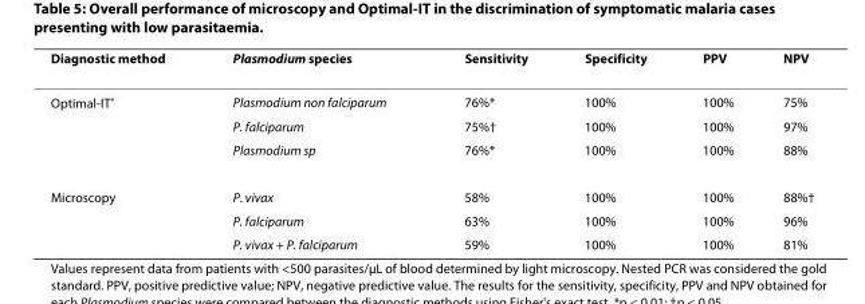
<table><thead><tr><td>Diagnostic method</td><td>Plasmodium species</td><td>Sensitivity</td><td>Specificity</td><td>PPV</td><td>NPV</td></tr></thead><tbody><tr><td rowspan="3">Optimal-IT<sup>®</sup></td><td>Plasmodium non falciparum</td><td>76%*</td><td>100%</td><td>100%</td><td>75%</td></tr><tr><td>P. falciparum</td><td>75%†</td><td>100%</td><td>100%</td><td>97%</td></tr><tr><td>Plasmodium sp</td><td>76%*</td><td>100%</td><td>100%</td><td>88%</td></tr><tr><td rowspan="3">Microscopy</td><td>P. vivax</td><td>58%</td><td>100%</td><td>100%</td><td>88%†</td></tr><tr><td>P. falciparum</td><td>63%</td><td>100%</td><td>100%</td><td>96%</td></tr><tr><td>P. vivax + P. falciparum</td><td>59%</td><td>100%</td><td>100%</td><td>81%</td></tr></tbody></table>